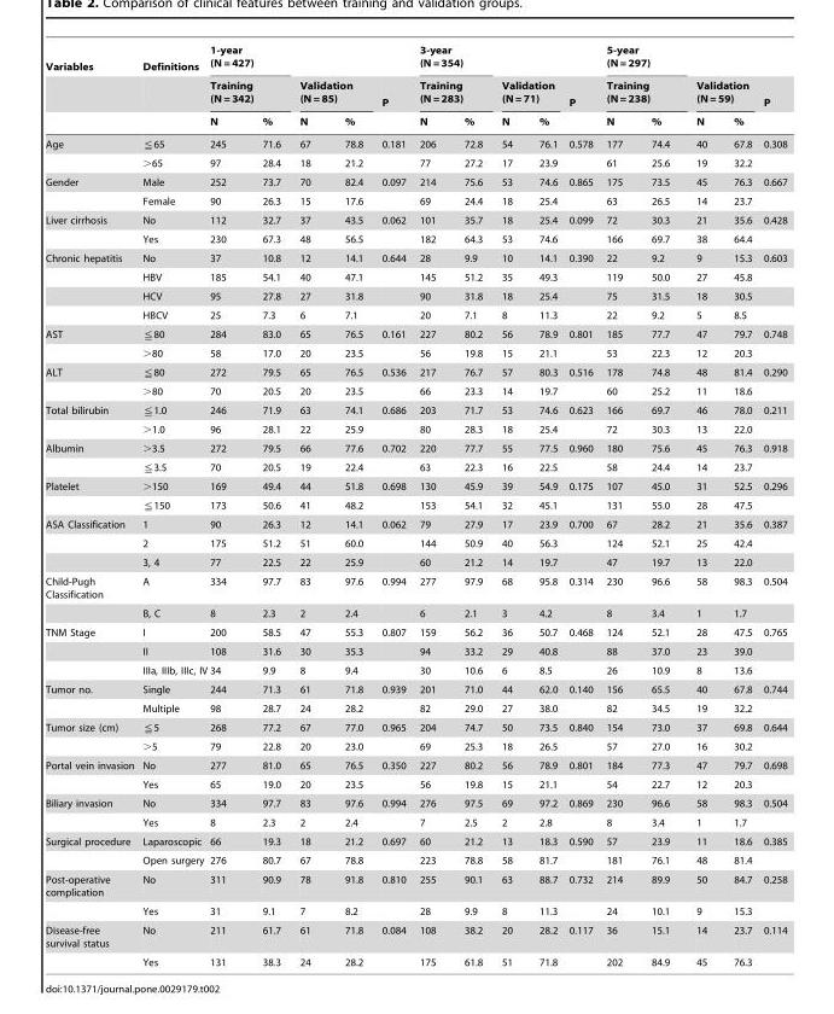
<table><thead><tr><td rowspan="3">Variables</td><td rowspan="3">Definitions</td><td rowspan="2" colspan="2">1-year (N = 427) Training (N = 342)</td><td></td><td></td><td rowspan="3">P</td><td rowspan="2" colspan="2">3-year (N = 354) Training (N = 283)</td><td></td><td></td><td rowspan="3">P</td><td rowspan="2" colspan="2">5-year (N = 297) Training (N = 238)</td><td></td><td></td><td rowspan="3">P</td></tr><tr><td colspan="2">Validation (N = 85)</td><td colspan="2">Validation (N = 71)</td><td colspan="2">Validation (N = 59)</td></tr><tr><td>N</td><td>%</td><td>N</td><td>%</td><td>N</td><td>%</td><td>N</td><td>%</td><td>N</td><td>%</td><td>N</td><td>%</td></tr></thead><tbody><tr><td rowspan="2">Age</td><td>⩽65</td><td>245</td><td>71.6</td><td>67</td><td>78.8</td><td>0.181</td><td>206</td><td>72.8</td><td>54</td><td>76.1</td><td>0.578</td><td>177</td><td>74.4</td><td>40</td><td>67.8</td><td>0.308</td></tr><tr><td>&gt;65</td><td>97</td><td>28.4</td><td>18</td><td>21.2</td><td></td><td>77</td><td>27.2</td><td>17</td><td>23.9</td><td></td><td>61</td><td>25.6</td><td>19</td><td>32.2</td><td></td></tr><tr><td rowspan="2">Gender</td><td>Male</td><td>252</td><td>73.7</td><td>70</td><td>82.4</td><td>0.097</td><td>214</td><td>75.6</td><td>53</td><td>74.6</td><td>0.865</td><td>175</td><td>73.5</td><td>45</td><td>76.3</td><td>0.667</td></tr><tr><td>Female</td><td>90</td><td>26.3</td><td>15</td><td>17.6</td><td></td><td>69</td><td>24.4</td><td>18</td><td>25.4</td><td></td><td>63</td><td>26.5</td><td>14</td><td>23.7</td><td></td></tr><tr><td rowspan="2">Liver cirrhosis</td><td>No</td><td>112</td><td>32.7</td><td>37</td><td>43.5</td><td>0.062</td><td>101</td><td>35.7</td><td>18</td><td>25.4</td><td>0.099</td><td>72</td><td>30.3</td><td>21</td><td>35.6</td><td>0.428</td></tr><tr><td>Yes</td><td>230</td><td>67.3</td><td>48</td><td>56.5</td><td></td><td>182</td><td>64.3</td><td>53</td><td>74.6</td><td></td><td>166</td><td>69.7</td><td>38</td><td>64.4</td><td></td></tr><tr><td rowspan="4">Chronic hepatitis</td><td>No</td><td>37</td><td>10.8</td><td>12</td><td>14.1</td><td>0.644</td><td>28</td><td>9.9</td><td>10</td><td>14.1</td><td>0.390</td><td>22</td><td>9.2</td><td>9</td><td>15.3</td><td>0.603</td></tr><tr><td>HBV</td><td>185</td><td>54.1</td><td>40</td><td>47.1</td><td></td><td>145</td><td>51.2</td><td>35</td><td>49.3</td><td></td><td>119</td><td>50.0</td><td>27</td><td>45.8</td><td></td></tr><tr><td>HCV</td><td>95</td><td>27.8</td><td>27</td><td>31.8</td><td></td><td>90</td><td>31.8</td><td>18</td><td>25.4</td><td></td><td>75</td><td>31.5</td><td>18</td><td>30.5</td><td></td></tr><tr><td>HBCV</td><td>25</td><td>7.3</td><td>6</td><td>7.1</td><td></td><td>20</td><td>7.1</td><td>8</td><td>11.3</td><td></td><td>22</td><td>9.2</td><td>5</td><td>8.5</td><td></td></tr><tr><td rowspan="2">AST</td><td>⩽80</td><td>284</td><td>83.0</td><td>65</td><td>76.5</td><td>0.161</td><td>227</td><td>80.2</td><td>56</td><td>78.9</td><td>0.801</td><td>185</td><td>77.7</td><td>47</td><td>79.7</td><td>0.748</td></tr><tr><td>&gt;80</td><td>58</td><td>17.0</td><td>20</td><td>23.5</td><td></td><td>56</td><td>19.8</td><td>15</td><td>21.1</td><td></td><td>53</td><td>22.3</td><td>12</td><td>20.3</td><td></td></tr><tr><td rowspan="2">ALT</td><td>⩽80</td><td>272</td><td>79.5</td><td>65</td><td>76.5</td><td>0.536</td><td>217</td><td>76.7</td><td>57</td><td>80.3</td><td>0.516</td><td>178</td><td>74.8</td><td>48</td><td>81.4</td><td>0.290</td></tr><tr><td>&gt;80</td><td>70</td><td>20.5</td><td>20</td><td>23.5</td><td></td><td>66</td><td>23.3</td><td>14</td><td>19.7</td><td></td><td>60</td><td>25.2</td><td>11</td><td>18.6</td><td></td></tr><tr><td rowspan="2">Total bilirubin</td><td>⩽1.0</td><td>246</td><td>71.9</td><td>63</td><td>74.1</td><td>0.686</td><td>203</td><td>71.7</td><td>53</td><td>74.6</td><td>0.623</td><td>166</td><td>69.7</td><td>46</td><td>78.0</td><td>0.211</td></tr><tr><td>&gt;1.0</td><td>96</td><td>28.1</td><td>22</td><td>25.9</td><td></td><td>80</td><td>28.3</td><td>18</td><td>25.4</td><td></td><td>72</td><td>30.3</td><td>13</td><td>22.0</td><td></td></tr><tr><td rowspan="2">Albumin</td><td>&gt;3.5</td><td>272</td><td>79.5</td><td>66</td><td>77.6</td><td>0.702</td><td>220</td><td>77.7</td><td>55</td><td>77.5</td><td>0.960</td><td>180</td><td>75.6</td><td>45</td><td>76.3</td><td>0.918</td></tr><tr><td>⩽3.5</td><td>70</td><td>20.5</td><td>19</td><td>22.4</td><td></td><td>63</td><td>22.3</td><td>16</td><td>22.5</td><td></td><td>58</td><td>24.4</td><td>14</td><td>23.7</td><td></td></tr><tr><td rowspan="2">Platelet</td><td>&gt;150</td><td>169</td><td>49.4</td><td>44</td><td>51.8</td><td>0.698</td><td>130</td><td>45.9</td><td>39</td><td>54.9</td><td>0.175</td><td>107</td><td>45.0</td><td>31</td><td>52.5</td><td>0.296</td></tr><tr><td>⩽150</td><td>173</td><td>50.6</td><td>41</td><td>48.2</td><td></td><td>153</td><td>54.1</td><td>32</td><td>45.1</td><td></td><td>131</td><td>55.0</td><td>28</td><td>47.5</td><td></td></tr><tr><td rowspan="3">ASA Classification</td><td>1</td><td>90</td><td>26.3</td><td>12</td><td>14.1</td><td>0.062</td><td>79</td><td>27.9</td><td>17</td><td>23.9</td><td>0.700</td><td>67</td><td>28.2</td><td>21</td><td>35.6</td><td>0.387</td></tr><tr><td>2</td><td>175</td><td>51.2</td><td>51</td><td>60.0</td><td></td><td>144</td><td>50.9</td><td>40</td><td>56.3</td><td></td><td>124</td><td>52.1</td><td>25</td><td>42.4</td><td></td></tr><tr><td>3, 4</td><td>77</td><td>22.5</td><td>22</td><td>25.9</td><td></td><td>60</td><td>21.2</td><td>14</td><td>19.7</td><td></td><td>47</td><td>19.7</td><td>13</td><td>22.0</td><td></td></tr><tr><td rowspan="2">Child-Pugh Classification</td><td>A</td><td>334</td><td>97.7</td><td>83</td><td>97.6</td><td>0.994</td><td>277</td><td>97.9</td><td>68</td><td>95.8</td><td>0.314</td><td>230</td><td>96.6</td><td>58</td><td>98.3</td><td>0.504</td></tr><tr><td>B, C</td><td>8</td><td>2.3</td><td>2</td><td>2.4</td><td></td><td>6</td><td>2.1</td><td>3</td><td>4.2</td><td></td><td>8</td><td>3.4</td><td>1</td><td>1.7</td><td></td></tr><tr><td rowspan="3">TNM Stage</td><td>I</td><td>200</td><td>58.5</td><td>47</td><td>55.3</td><td>0.807</td><td>159</td><td>56.2</td><td>36</td><td>50.7</td><td>0.468</td><td>124</td><td>52.1</td><td>28</td><td>47.5</td><td>0.765</td></tr><tr><td>II</td><td>108</td><td>31.6</td><td>30</td><td>35.3</td><td></td><td>94</td><td>33.2</td><td>29</td><td>40.8</td><td></td><td>88</td><td>37.0</td><td>23</td><td>39.0</td><td></td></tr><tr><td>IIIa, IIIb, IIIc, IV</td><td>34</td><td>9.9</td><td>8</td><td>9.4</td><td></td><td>30</td><td>10.6</td><td>6</td><td>8.5</td><td></td><td>26</td><td>10.9</td><td>8</td><td>13.6</td><td></td></tr><tr><td rowspan="2">Tumor no.</td><td>Single</td><td>244</td><td>71.3</td><td>61</td><td>71.8</td><td>0.939</td><td>201</td><td>71.0</td><td>44</td><td>62.0</td><td>0.140</td><td>156</td><td>65.5</td><td>40</td><td>67.8</td><td>0.744</td></tr><tr><td>Multiple</td><td>98</td><td>28.7</td><td>24</td><td>28.2</td><td></td><td>82</td><td>29.0</td><td>27</td><td>38.0</td><td></td><td>82</td><td>34.5</td><td>19</td><td>32.2</td><td></td></tr><tr><td rowspan="2">Tumor size (cm)</td><td>⩽5</td><td>268</td><td>77.2</td><td>67</td><td>77.0</td><td>0.965</td><td>204</td><td>74.7</td><td>50</td><td>73.5</td><td>0.840</td><td>154</td><td>73.0</td><td>37</td><td>69.8</td><td>0.644</td></tr><tr><td>&gt;5</td><td>79</td><td>22.8</td><td>20</td><td>23.0</td><td></td><td>69</td><td>25.3</td><td>18</td><td>26.5</td><td></td><td>57</td><td>27.0</td><td>16</td><td>30.2</td><td></td></tr><tr><td rowspan="2">Portal vein invasion</td><td>No</td><td>277</td><td>81.0</td><td>65</td><td>76.5</td><td>0.350</td><td>227</td><td>80.2</td><td>56</td><td>78.9</td><td>0.801</td><td>184</td><td>77.3</td><td>47</td><td>79.7</td><td>0.698</td></tr><tr><td>Yes</td><td>65</td><td>19.0</td><td>20</td><td>23.5</td><td></td><td>56</td><td>19.8</td><td>15</td><td>21.1</td><td></td><td>54</td><td>22.7</td><td>12</td><td>20.3</td><td></td></tr><tr><td rowspan="2">Biliary invasion</td><td>No</td><td>334</td><td>97.7</td><td>83</td><td>97.6</td><td>0.994</td><td>276</td><td>97.5</td><td>69</td><td>97.2</td><td>0.869</td><td>230</td><td>96.6</td><td>58</td><td>98.3</td><td>0.504</td></tr><tr><td>Yes</td><td>8</td><td>2.3</td><td>2</td><td>2.4</td><td></td><td>7</td><td>2.5</td><td>2</td><td>2.8</td><td></td><td>8</td><td>3.4</td><td>1</td><td>1.7</td><td></td></tr><tr><td rowspan="2">Surgical procedure</td><td>Laparoscopic</td><td>66</td><td>19.3</td><td>18</td><td>21.2</td><td>0.697</td><td>60</td><td>21.2</td><td>13</td><td>18.3</td><td>0.590</td><td>57</td><td>23.9</td><td>11</td><td>18.6</td><td>0.385</td></tr><tr><td>Open surgery</td><td>276</td><td>80.7</td><td>67</td><td>78.8</td><td></td><td>223</td><td>78.8</td><td>58</td><td>81.7</td><td></td><td>181</td><td>76.1</td><td>48</td><td>81.4</td><td></td></tr><tr><td rowspan="2">Post-operative complication</td><td>No</td><td>311</td><td>90.9</td><td>78</td><td>91.8</td><td>0.810</td><td>255</td><td>90.1</td><td>63</td><td>88.7</td><td>0.732</td><td>214</td><td>89.9</td><td>50</td><td>84.7</td><td>0.258</td></tr><tr><td>Yes</td><td>31</td><td>9.1</td><td>7</td><td>8.2</td><td></td><td>28</td><td>9.9</td><td>8</td><td>11.3</td><td></td><td>24</td><td>10.1</td><td>9</td><td>15.3</td><td></td></tr><tr><td rowspan="2">Disease-free survival status</td><td>No</td><td>211</td><td>61.7</td><td>61</td><td>71.8</td><td>0.084</td><td>108</td><td>38.2</td><td>20</td><td>28.2</td><td>0.117</td><td>36</td><td>15.1</td><td>14</td><td>23.7</td><td>0.114</td></tr><tr><td>Yes</td><td>131</td><td>38.3</td><td>24</td><td>28.2</td><td></td><td>175</td><td>61.8</td><td>51</td><td>71.8</td><td></td><td>202</td><td>84.9</td><td>45</td><td>76.3</td><td></td></tr></tbody></table>